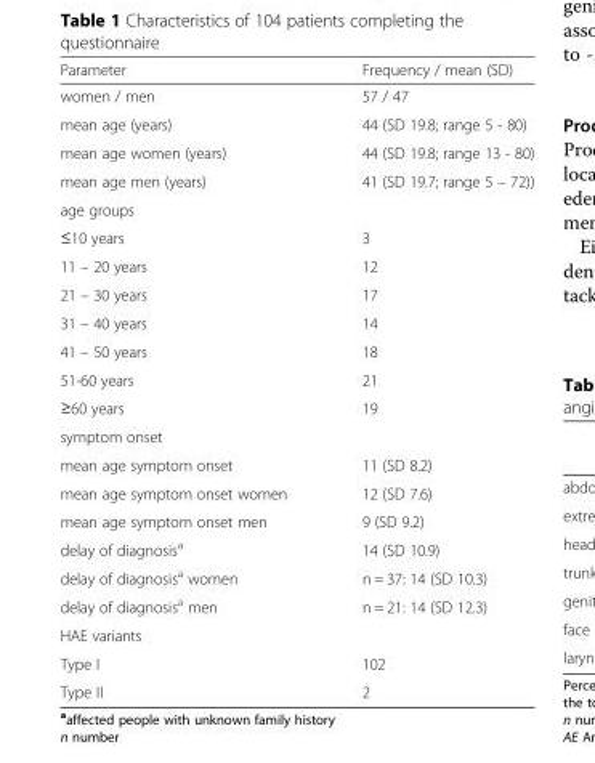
<table><thead><tr><td>Parameter</td><td>Frequency / mean (SD)</td></tr></thead><tbody><tr><td>women / men</td><td>57 / 47</td></tr><tr><td>mean age (years)</td><td>44 (SD 19.8; range 5 - 80)</td></tr><tr><td>mean age women (years)</td><td>44 (SD 19.8; range 13 - 80)</td></tr><tr><td>mean age men (years)</td><td>41 (SD 19.7; range 5 – 72))</td></tr><tr><td colspan="2">age groups</td></tr><tr><td>≤10 years</td><td>3</td></tr><tr><td>11 – 20 years</td><td>12</td></tr><tr><td>21 – 30 years</td><td>17</td></tr><tr><td>31 – 40 years</td><td>14</td></tr><tr><td>41 – 50 years</td><td>18</td></tr><tr><td>51-60 years</td><td>21</td></tr><tr><td>≥60 years</td><td>19</td></tr><tr><td colspan="2">symptom onset</td></tr><tr><td>mean age symptom onset</td><td>11 (SD 8.2)</td></tr><tr><td>mean age symptom onset women</td><td>12 (SD 7.6)</td></tr><tr><td>mean age symptom onset men</td><td>9 (SD 9.2)</td></tr><tr><td>delay of diagnosis<sup>a</sup></td><td>14 (SD 10.9)</td></tr><tr><td>delay of diagnosis<sup>a</sup> women</td><td>n = 37: 14 (SD 10.3)</td></tr><tr><td>delay of diagnosis<sup>a</sup> men</td><td>n = 21: 14 (SD 12.3)</td></tr><tr><td colspan="2">HAE variants</td></tr><tr><td>Type I</td><td>102</td></tr><tr><td>Type II</td><td>2</td></tr></tbody></table>